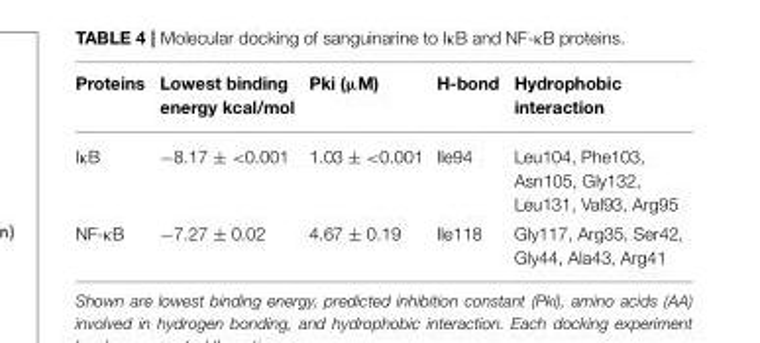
<table><thead><tr><td>Proteins</td><td>Lowest binding energy kcal/mol</td><td>Pki (µM)</td><td>H-bond</td><td>Hydrophobic interaction</td></tr></thead><tbody><tr><td>IκB</td><td>−8.17 ± &lt;0.001</td><td>1.03 ± &lt;0.001</td><td>Ile94</td><td>Leu104, Phe103, Asn105, Gly132, Leu131, Val93, Arg95</td></tr><tr><td>NF-κB</td><td>−7.27 ± 0.02</td><td>4.67 ± 0.19</td><td>Ile118</td><td>Gly117, Arg35, Ser42, Gly44, Ala43, Arg41</td></tr></tbody></table>